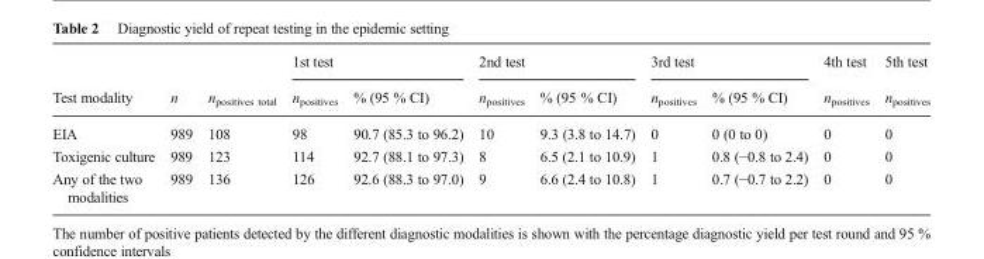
<table><thead><tr><td rowspan="2">Test modality</td><td rowspan="2">n</td><td rowspan="2">n<sub>positives total</sub></td><td colspan="2">1st test</td><td colspan="2">2nd test</td><td colspan="2">3rd test</td><td rowspan="2">4th test n<sub>positives</sub></td><td rowspan="2">5th test n<sub>positives</sub></td></tr><tr><td>n<sub>positives</sub></td><td>% (95 % CI)</td><td>n<sub>positives</sub></td><td>% (95 % CI)</td><td>n<sub>positives</sub></td><td>% (95 % CI)</td></tr></thead><tbody><tr><td>EIA</td><td>989</td><td>108</td><td>98</td><td>90.7 (85.3 to 96.2)</td><td>10</td><td>9.3 (3.8 to 14.7)</td><td>0</td><td>0 (0 to 0)</td><td>0</td><td>0</td></tr><tr><td>Toxigenic culture</td><td>989</td><td>123</td><td>114</td><td>92.7 (88.1 to 97.3)</td><td>8</td><td>6.5 (2.1 to 10.9)</td><td>1</td><td>0.8 (−0.8 to 2.4)</td><td>0</td><td>0</td></tr><tr><td>Any of the two modalities</td><td>989</td><td>136</td><td>126</td><td>92.6 (88.3 to 97.0)</td><td>9</td><td>6.6 (2.4 to 10.8)</td><td>1</td><td>0.7 (−0.7 to 2.2)</td><td>0</td><td>0</td></tr></tbody></table>